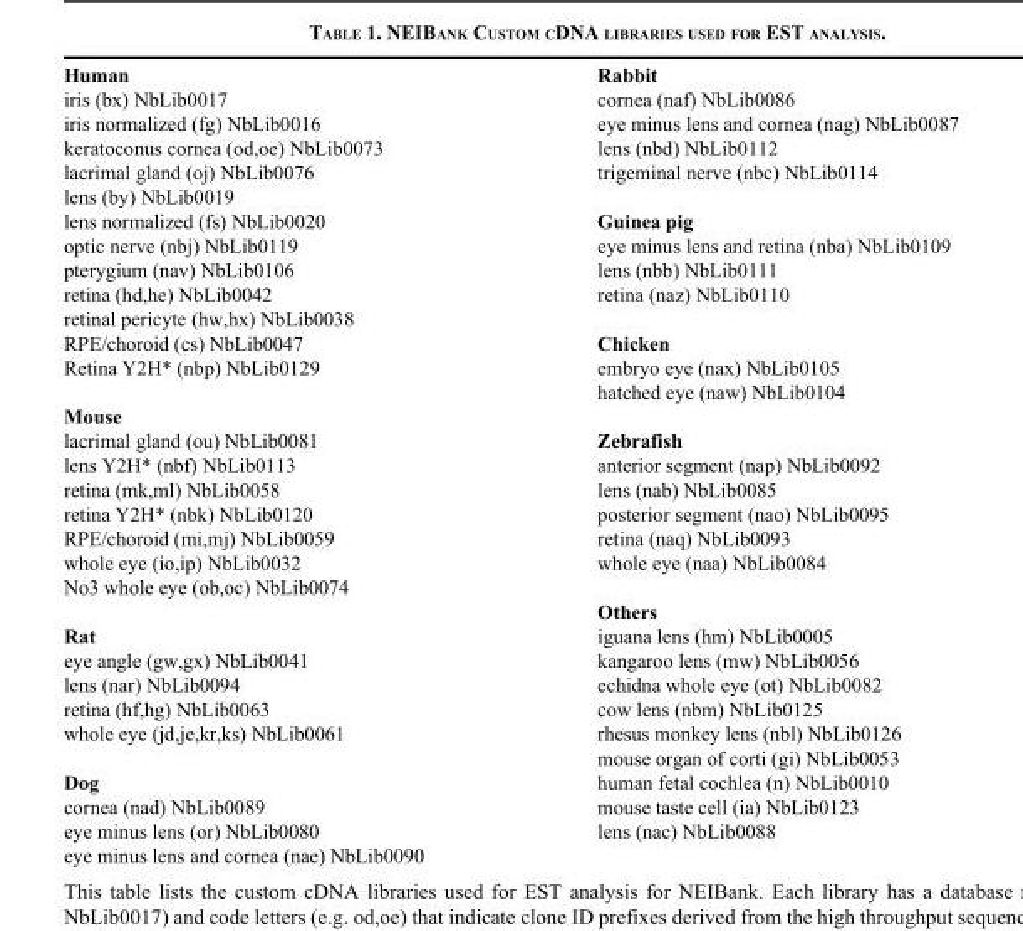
<table><tbody><tr><td>Human</td><td>Rabbit</td></tr><tr><td>iris (bx) NbLib0017</td><td>cornea (naf) NbLib0086</td></tr><tr><td>iris normalized (fg) NbLib0016</td><td>eye minus lens and cornea (nag) NbLib0087</td></tr><tr><td>keratoconus cornea (od,oe) NbLib0073</td><td>lens (nbd) NbLib0112</td></tr><tr><td>lacrimal gland (oj) NbLib0076</td><td>trigeminal nerve (nbc) NbLib0114</td></tr><tr><td colspan="2">lens (by) NbLib0019</td></tr><tr><td>lens normalized (fs) NbLib0020</td><td>Guinea pig</td></tr><tr><td>optic nerve (nbj) NbLib0119</td><td>eye minus lens and retina (nba) NbLib0109</td></tr><tr><td>pterygium (nav) NbLib0106</td><td>lens (nbb) NbLib0111</td></tr><tr><td>retina (hd,he) NbLib0042</td><td>retina (naz) NbLib0110</td></tr><tr><td colspan="2">retinal pericyte (hw,hx) NbLib0038</td></tr><tr><td>RPE/choroid (cs) NbLib0047</td><td>Chicken</td></tr><tr><td rowspan="2">Retina Y2H* (nbp) NbLib0129</td><td>embryo eye (nax) NbLib0105</td></tr><tr><td>hatched eye (naw) NbLib0104</td></tr><tr><td colspan="2">Mouse</td></tr><tr><td>lacrimal gland (ou) NbLib0081</td><td>Zebrafish</td></tr><tr><td>lens Y2H* (nbf) NbLib0113</td><td>anterior segment (nap) NbLib0092</td></tr><tr><td>retina (mk,ml) NbLib0058</td><td>lens (nab) NbLib0085</td></tr><tr><td>retina Y2H* (nbk) NbLib0120</td><td>posterior segment (nao) NbLib0095</td></tr><tr><td>RPE/choroid (mi,mj) NbLib0059</td><td>retina (naq) NbLib0093</td></tr><tr><td>whole eye (io,ip) NbLib0032</td><td>whole eye (naa) NbLib0084</td></tr><tr><td colspan="2">No3 whole eye (ob,oc) NbLib0074</td></tr><tr><td></td><td>Others</td></tr><tr><td>Rat</td><td>iguana lens (hm) NbLib0005</td></tr><tr><td>eye angle (gw,gx) NbLib0041</td><td>kangaroo lens (mw) NbLib0056</td></tr><tr><td>lens (nar) NbLib0094</td><td>echidna whole eye (ot) NbLib0082</td></tr><tr><td>retina (hf,hg) NbLib0063</td><td>cow lens (nbm) NbLib0125</td></tr><tr><td rowspan="2">whole eye (jd,je,kr,ks) NbLib0061</td><td>rhesus monkey lens (nbl) NbLib0126</td></tr><tr><td>mouse organ of corti (gi) NbLib0053</td></tr><tr><td>Dog</td><td>human fetal cochlea (n) NbLib0010</td></tr><tr><td>cornea (nad) NbLib0089</td><td>mouse taste cell (ia) NbLib0123</td></tr><tr><td>eye minus lens (or) NbLib0080</td><td>lens (nac) NbLib0088</td></tr><tr><td>eye minus lens and cornea (nae) NbLib0090</td><td></td></tr></tbody></table>